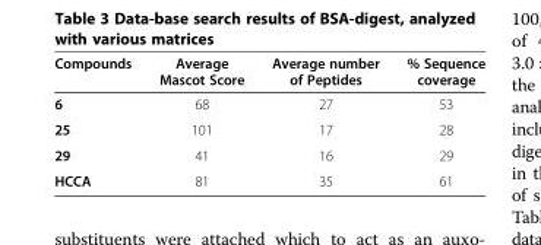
<table><thead><tr><td>Compounds</td><td>Average Mascot Score</td><td>Average number of Peptides</td><td>% Sequence coverage</td></tr></thead><tbody><tr><td>6</td><td>68</td><td>27</td><td>53</td></tr><tr><td>25</td><td>101</td><td>17</td><td>28</td></tr><tr><td>29</td><td>41</td><td>16</td><td>29</td></tr><tr><td>HCCA</td><td>81</td><td>35</td><td>61</td></tr></tbody></table>